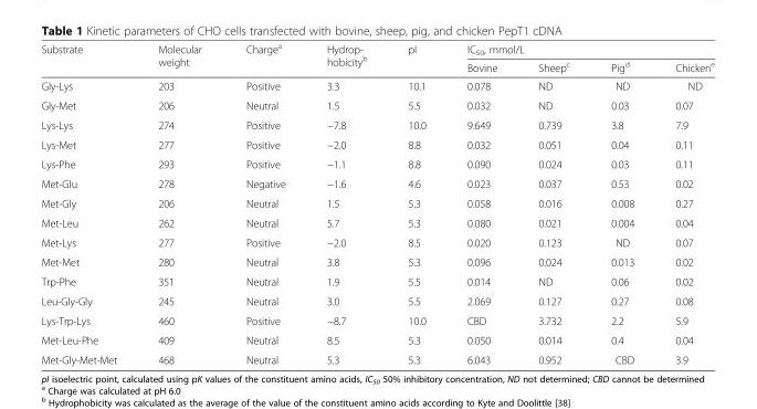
<table><thead><tr><td rowspan="2">Substrate</td><td rowspan="2">Molecular weight</td><td rowspan="2">Charge<sup>a</sup></td><td rowspan="2">Hydrop- hobicity<sup>b</sup></td><td rowspan="2">pI</td><td colspan="4">IC<sub>50</sub>, mmol/L</td></tr><tr><td>Bovine</td><td>Sheep<sup>c</sup></td><td>Pig<sup>d</sup></td><td>Chicken<sup>e</sup></td></tr></thead><tbody><tr><td>Gly-Lys</td><td>203</td><td>Positive</td><td>3.3</td><td>10.1</td><td>0.078</td><td>ND</td><td>ND</td><td>ND</td></tr><tr><td>Gly-Met</td><td>206</td><td>Neutral</td><td>1.5</td><td>5.5</td><td>0.032</td><td>ND</td><td>0.03</td><td>0.07</td></tr><tr><td>Lys-Lys</td><td>274</td><td>Positive</td><td>−7.8</td><td>10.0</td><td>9.649</td><td>0.739</td><td>3.8</td><td>7.9</td></tr><tr><td>Lys-Met</td><td>277</td><td>Positive</td><td>−2.0</td><td>8.8</td><td>0.032</td><td>0.051</td><td>0.04</td><td>0.11</td></tr><tr><td>Lys-Phe</td><td>293</td><td>Positive</td><td>−1.1</td><td>8.8</td><td>0.090</td><td>0.024</td><td>0.03</td><td>0.11</td></tr><tr><td>Met-Glu</td><td>278</td><td>Negative</td><td>−1.6</td><td>4.6</td><td>0.023</td><td>0.037</td><td>0.53</td><td>0.02</td></tr><tr><td>Met-Gly</td><td>206</td><td>Neutral</td><td>1.5</td><td>5.3</td><td>0.058</td><td>0.016</td><td>0.008</td><td>0.27</td></tr><tr><td>Met-Leu</td><td>262</td><td>Neutral</td><td>5.7</td><td>5.3</td><td>0.080</td><td>0.021</td><td>0.004</td><td>0.04</td></tr><tr><td>Met-Lys</td><td>277</td><td>Positive</td><td>−2.0</td><td>8.5</td><td>0.020</td><td>0.123</td><td>ND</td><td>0.07</td></tr><tr><td>Met-Met</td><td>280</td><td>Neutral</td><td>3.8</td><td>5.3</td><td>0.096</td><td>0.024</td><td>0.013</td><td>0.02</td></tr><tr><td>Trp-Phe</td><td>351</td><td>Neutral</td><td>1.9</td><td>5.5</td><td>0.014</td><td>ND</td><td>0.06</td><td>0.02</td></tr><tr><td>Leu-Gly-Gly</td><td>245</td><td>Neutral</td><td>3.0</td><td>5.5</td><td>2.069</td><td>0.127</td><td>0.27</td><td>0.08</td></tr><tr><td>Lys-Trp-Lys</td><td>460</td><td>Positive</td><td>−8.7</td><td>10.0</td><td>CBD</td><td>3.732</td><td>2.2</td><td>5.9</td></tr><tr><td>Met-Leu-Phe</td><td>409</td><td>Neutral</td><td>8.5</td><td>5.3</td><td>0.050</td><td>0.014</td><td>0.4</td><td>0.04</td></tr><tr><td>Met-Gly-Met-Met</td><td>468</td><td>Neutral</td><td>5.3</td><td>5.3</td><td>6.043</td><td>0.952</td><td>CBD</td><td>3.9</td></tr></tbody></table>